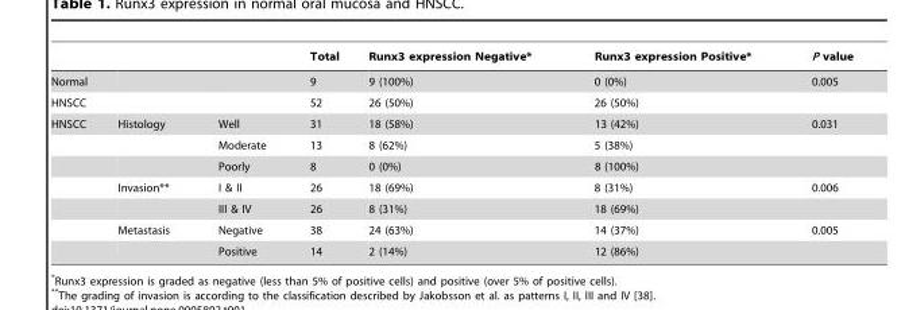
<table><thead><tr><td></td><td></td><td></td><td>Total</td><td>Runx3 expression Negative*</td><td>Runx3 expression Positive*</td><td>P value</td></tr></thead><tbody><tr><td>Normal</td><td></td><td></td><td>9</td><td>9 (100%)</td><td>0 (0%)</td><td>0.005</td></tr><tr><td>HNSCC</td><td></td><td></td><td>52</td><td>26 (50%)</td><td>26 (50%)</td><td></td></tr><tr><td rowspan="7">HNSCC</td><td>Histology</td><td>Well</td><td>31</td><td>18 (58%)</td><td>13 (42%)</td><td>0.031</td></tr><tr><td></td><td>Moderate</td><td>13</td><td>8 (62%)</td><td>5 (38%)</td><td></td></tr><tr><td></td><td>Poorly</td><td>8</td><td>0 (0%)</td><td>8 (100%)</td><td></td></tr><tr><td>Invasion**</td><td>I &amp; II</td><td>26</td><td>18 (69%)</td><td>8 (31%)</td><td>0.006</td></tr><tr><td></td><td>III &amp; IV</td><td>26</td><td>8 (31%)</td><td>18 (69%)</td><td></td></tr><tr><td>Metastasis</td><td>Negative</td><td>38</td><td>24 (63%)</td><td>14 (37%)</td><td>0.005</td></tr><tr><td></td><td>Positive</td><td>14</td><td>2 (14%)</td><td>12 (86%)</td><td></td></tr></tbody></table>